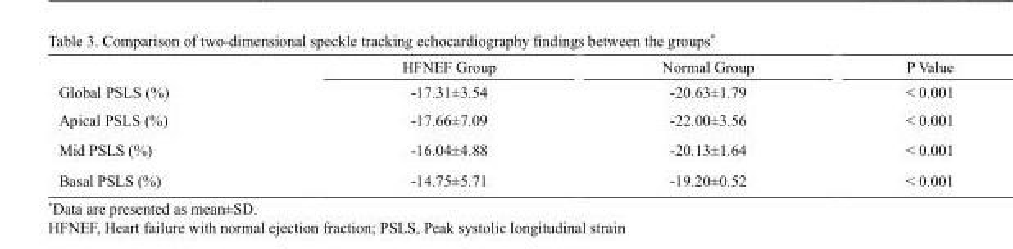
<table><thead><tr><td></td><td>HFNEF Group</td><td>Normal Group</td><td>P Value</td></tr></thead><tbody><tr><td>Global PSLS (%)</td><td>-17.31±3.54</td><td>-20.63±1.79</td><td>&lt; 0.001</td></tr><tr><td>Apical PSLS (%)</td><td>-17.66±7.09</td><td>-22.00±3.56</td><td>&lt; 0.001</td></tr><tr><td>Mid PSLS (%)</td><td>-16.04±4.88</td><td>-20.13±1.64</td><td>&lt; 0.001</td></tr><tr><td>Basal PSLS (%)</td><td>-14.75±5.71</td><td>-19.20±0.52</td><td>&lt; 0.001</td></tr></tbody></table>